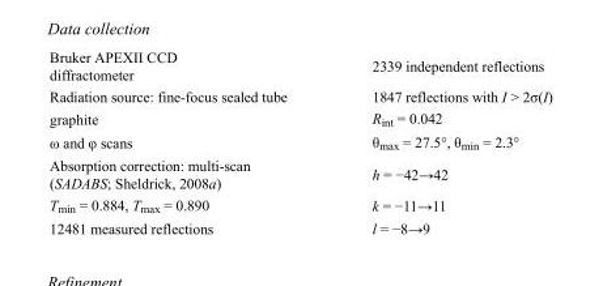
<table><tbody><tr><td>Bruker APEXII CCD diffractometer</td><td>2339 independent reflections</td></tr><tr><td>Radiation source: fine-focus sealed tube</td><td>1847 reflections with I &gt; 2σ(I)</td></tr><tr><td>graphite</td><td>R<sub>int</sub> = 0.042</td></tr><tr><td>ω and φ scans</td><td>θ<sub>max</sub> = 27.5°, θ<sub>min</sub> = 2.3°</td></tr><tr><td>Absorption correction: multi-scan (SADABS; Sheldrick, 2008a)</td><td>h = −42→42</td></tr><tr><td>T<sub>min</sub> = 0.884, T<sub>max</sub> = 0.890</td><td>k = −11→11</td></tr><tr><td>12481 measured reflections</td><td>l = −8→9</td></tr></tbody></table>